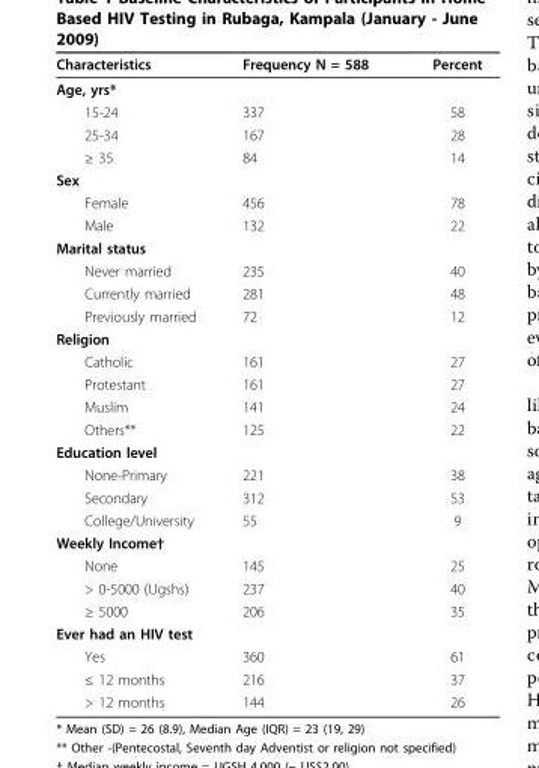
<table><thead><tr><td>Characteristics</td><td>Frequency N = 588</td><td>Percent</td></tr></thead><tbody><tr><td colspan="3">Age, yrs*</td></tr><tr><td>15-24</td><td>337</td><td>58</td></tr><tr><td>25-34</td><td>167</td><td>28</td></tr><tr><td>≥ 35</td><td>84</td><td>14</td></tr><tr><td colspan="3">Sex</td></tr><tr><td>Female</td><td>456</td><td>78</td></tr><tr><td>Male</td><td>132</td><td>22</td></tr><tr><td colspan="3">Marital status</td></tr><tr><td>Never married</td><td>235</td><td>40</td></tr><tr><td>Currently married</td><td>281</td><td>48</td></tr><tr><td>Previously married</td><td>72</td><td>12</td></tr><tr><td colspan="3">Religion</td></tr><tr><td>Catholic</td><td>161</td><td>27</td></tr><tr><td>Protestant</td><td>161</td><td>27</td></tr><tr><td>Muslim</td><td>141</td><td>24</td></tr><tr><td>Others**</td><td>125</td><td>22</td></tr><tr><td colspan="3">Education level</td></tr><tr><td>None-Primary</td><td>221</td><td>38</td></tr><tr><td>Secondary</td><td>312</td><td>53</td></tr><tr><td>College/University</td><td>55</td><td>9</td></tr><tr><td colspan="3">Weekly Income†</td></tr><tr><td>None</td><td>145</td><td>25</td></tr><tr><td>&gt; 0-5000 (Ugshs)</td><td>237</td><td>40</td></tr><tr><td>≥ 5000</td><td>206</td><td>35</td></tr><tr><td colspan="3">Ever had an HIV test</td></tr><tr><td>Yes</td><td>360</td><td>61</td></tr><tr><td>≤ 12 months</td><td>216</td><td>37</td></tr><tr><td>&gt; 12 months</td><td>144</td><td>26</td></tr></tbody></table>